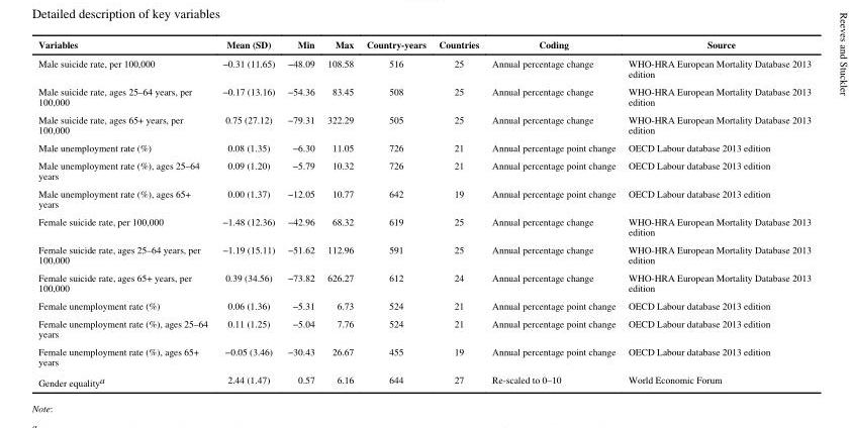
<table><thead><tr><td>Variables</td><td>Mean (SD)</td><td>Min</td><td>Max</td><td>Country-years</td><td>Countries</td><td>Coding</td><td>Source</td></tr></thead><tbody><tr><td>Male suicide rate, per 100,000</td><td>−0.31 (11.65)</td><td>−48.09</td><td>108.58</td><td>516</td><td>25</td><td>Annual percentage change</td><td>WHO-HRA European Mortality Database 2013 edition</td></tr><tr><td>Male suicide rate, ages 25–64 years, per 100,000</td><td>−0.17 (13.16)</td><td>−54.36</td><td>83.45</td><td>508</td><td>25</td><td>Annual percentage change</td><td>WHO-HRA European Mortality Database 2013 edition</td></tr><tr><td>Male suicide rate, ages 65+ years, per 100,000</td><td>0.75 (27.12)</td><td>−79.31</td><td>322.29</td><td>505</td><td>25</td><td>Annual percentage change</td><td>WHO-HRA European Mortality Database 2013 edition</td></tr><tr><td>Male unemployment rate (%)</td><td>0.08 (1.35)</td><td>−6.30</td><td>11.05</td><td>726</td><td>21</td><td>Annual percentage point change</td><td>OECD Labour database 2013 edition</td></tr><tr><td>Male unemployment rate (%), ages 25–64 years</td><td>0.09 (1.20)</td><td>−5.79</td><td>10.32</td><td>726</td><td>21</td><td>Annual percentage point change</td><td>OECD Labour database 2013 edition</td></tr><tr><td>Male unemployment rate (%), ages 65+ years</td><td>0.00 (1.37)</td><td>−12.05</td><td>10.77</td><td>642</td><td>19</td><td>Annual percentage point change</td><td>OECD Labour database 2013 edition</td></tr><tr><td>Female suicide rate, per 100,000</td><td>−1.48 (12.36)</td><td>−42.96</td><td>68.32</td><td>619</td><td>25</td><td>Annual percentage change</td><td>WHO-HRA European Mortality Database 2013 edition</td></tr><tr><td>Female suicide rate, ages 25–64 years, per 100,000</td><td>−1.19 (15.11)</td><td>−51.62</td><td>112.96</td><td>591</td><td>25</td><td>Annual percentage change</td><td>WHO-HRA European Mortality Database 2013 edition</td></tr><tr><td>Female suicide rate, ages 65+ years, per 100,000</td><td>0.39 (34.56)</td><td>−73.82</td><td>626.27</td><td>612</td><td>24</td><td>Annual percentage change</td><td>WHO-HRA European Mortality Database 2013 edition</td></tr><tr><td>Female unemployment rate (%)</td><td>0.06 (1.36)</td><td>−5.31</td><td>6.73</td><td>524</td><td>21</td><td>Annual percentage point change</td><td>OECD Labour database 2013 edition</td></tr><tr><td>Female unemployment rate (%), ages 25–64 years</td><td>0.11 (1.25)</td><td>−5.04</td><td>7.76</td><td>524</td><td>21</td><td>Annual percentage point change</td><td>OECD Labour database 2013 edition</td></tr><tr><td>Female unemployment rate (%), ages 65+ years</td><td>−0.05 (3.46)</td><td>−30.43</td><td>26.67</td><td>455</td><td>19</td><td>Annual percentage point change</td><td>OECD Labour database 2013 edition</td></tr><tr><td>Gender equality<sup>a</sup></td><td>2.44 (1.47)</td><td>0.57</td><td>6.16</td><td>644</td><td>27</td><td>Re-scaled to 0–10</td><td>World Economic Forum</td></tr></tbody></table>